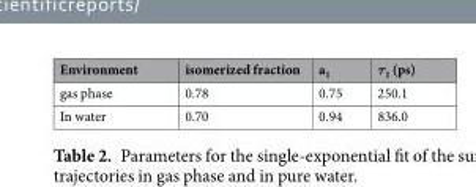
<table><thead><tr><td>Environment</td><td>isomerized fraction</td><td>a<sub>1</sub></td><td>τ<sub>1</sub> (ps)</td></tr></thead><tbody><tr><td>gas phase</td><td>0.78</td><td>0.75</td><td>250.1</td></tr><tr><td>In water</td><td>0.70</td><td>0.94</td><td>836.0</td></tr></tbody></table>